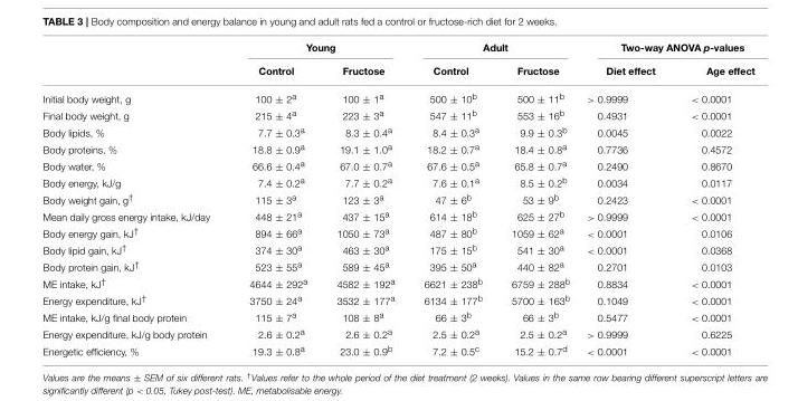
<table><thead><tr><td rowspan="2"></td><td colspan="2">Young</td><td colspan="2">Adult</td><td colspan="2">Two-way ANOVA p-values</td></tr><tr><td>Control</td><td>Fructose</td><td>Control</td><td>Fructose</td><td>Diet effect</td><td>Age effect</td></tr></thead><tbody><tr><td>Initial body weight, g</td><td>100 ± 2<sup>a</sup></td><td>100 ± 1<sup>a</sup></td><td>500 ± 10<sup>b</sup></td><td>500 ± 11<sup>b</sup></td><td>&gt; 0.9999</td><td>&lt; 0.0001</td></tr><tr><td>Final body weight, g</td><td>215 ± 4<sup>a</sup></td><td>223 ± 3<sup>a</sup></td><td>547 ± 11<sup>b</sup></td><td>553 ± 16<sup>b</sup></td><td>0.4931</td><td>&lt; 0.0001</td></tr><tr><td>Body lipids, %</td><td>7.7 ± 0.3<sup>a</sup></td><td>8.3 ± 0.4<sup>a</sup></td><td>8.4 ± 0.3<sup>a</sup></td><td>9.9 ± 0.3<sup>b</sup></td><td>0.0045</td><td>0.0022</td></tr><tr><td>Body proteins, %</td><td>18.8 ± 0.9<sup>a</sup></td><td>19.1 ± 1.0<sup>a</sup></td><td>18.2 ± 0.7<sup>a</sup></td><td>18.4 ± 0.8<sup>a</sup></td><td>0.7736</td><td>0.4572</td></tr><tr><td>Body water, %</td><td>66.6 ± 0.4<sup>a</sup></td><td>67.0 ± 0.7<sup>a</sup></td><td>67.6 ± 0.5<sup>a</sup></td><td>65.8 ± 0.7<sup>a</sup></td><td>0.2490</td><td>0.8670</td></tr><tr><td>Body energy, kJ/g</td><td>7.4 ± 0.2<sup>a</sup></td><td>7.7 ± 0.2<sup>a</sup></td><td>7.6 ± 0.1<sup>a</sup></td><td>8.5 ± 0.2<sup>b</sup></td><td>0.0034</td><td>0.0117</td></tr><tr><td>Body weight gain, g<sup>†</sup></td><td>115 ± 3<sup>a</sup></td><td>123 ± 3<sup>a</sup></td><td>47 ± 6<sup>b</sup></td><td>53 ± 9<sup>b</sup></td><td>0.2423</td><td>&lt; 0.0001</td></tr><tr><td>Mean daily gross energy intake, kJ/day</td><td>448 ± 21<sup>a</sup></td><td>437 ± 15<sup>a</sup></td><td>614 ± 18<sup>b</sup></td><td>625 ± 27<sup>b</sup></td><td>&gt; 0.9999</td><td>&lt; 0.0001</td></tr><tr><td>Body energy gain, kJ<sup>†</sup></td><td>894 ± 66<sup>a</sup></td><td>1050 ± 73<sup>a</sup></td><td>487 ± 80<sup>b</sup></td><td>1059 ± 62<sup>a</sup></td><td>&lt; 0.0001</td><td>0.0106</td></tr><tr><td>Body lipid gain, kJ<sup>†</sup></td><td>374 ± 30<sup>a</sup></td><td>463 ± 30<sup>a</sup></td><td>175 ± 15<sup>b</sup></td><td>541 ± 30<sup>a</sup></td><td>&lt; 0.0001</td><td>0.0368</td></tr><tr><td>Body protein gain, kJ<sup>†</sup></td><td>523 ± 55<sup>a</sup></td><td>589 ± 45<sup>a</sup></td><td>395 ± 50<sup>a</sup></td><td>440 ± 82<sup>a</sup></td><td>0.2701</td><td>0.0103</td></tr><tr><td>ME intake, kJ<sup>†</sup></td><td>4644 ± 292<sup>a</sup></td><td>4582 ± 192<sup>a</sup></td><td>6621 ± 238<sup>b</sup></td><td>6759 ± 288<sup>b</sup></td><td>0.8834</td><td>&lt; 0.0001</td></tr><tr><td>Energy expenditure, kJ<sup>†</sup></td><td>3750 ± 24<sup>a</sup></td><td>3532 ± 177<sup>a</sup></td><td>6134 ± 177<sup>b</sup></td><td>5700 ± 163<sup>b</sup></td><td>0.1049</td><td>&lt; 0.0001</td></tr><tr><td>ME intake, kJ/g final body protein</td><td>115 ± 7<sup>a</sup></td><td>108 ± 8<sup>a</sup></td><td>66 ± 3<sup>b</sup></td><td>66 ± 3<sup>b</sup></td><td>0.5477</td><td>&lt; 0.0001</td></tr><tr><td>Energy expenditure, kJ/g body protein</td><td>2.6 ± 0.2<sup>a</sup></td><td>2.6 ± 0.2<sup>a</sup></td><td>2.5 ± 0.2<sup>a</sup></td><td>2.5 ± 0.2<sup>a</sup></td><td>&gt; 0.9999</td><td>0.6225</td></tr><tr><td>Energetic efficiency, %</td><td>19.3 ± 0.8<sup>a</sup></td><td>23.0 ± 0.9<sup>b</sup></td><td>7.2 ± 0.5<sup>c</sup></td><td>15.2 ± 0.7<sup>d</sup></td><td>&lt; 0.0001</td><td>&lt; 0.0001</td></tr></tbody></table>